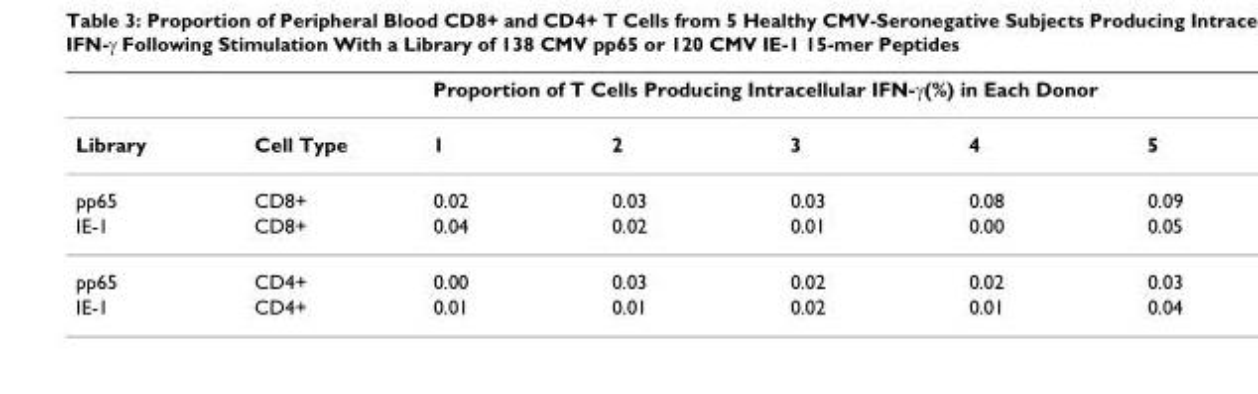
<table><thead><tr><td rowspan="2">Library</td><td rowspan="2">Cell Type</td><td colspan="5">Proportion of T Cells Producing Intracellular IFN-γ(%) in Each Donor</td></tr><tr><td>1</td><td>2</td><td>3</td><td>4</td><td>5</td></tr></thead><tbody><tr><td>pp65</td><td>CD8+</td><td>0.02</td><td>0.03</td><td>0.03</td><td>0.08</td><td>0.09</td></tr><tr><td>IE-1</td><td>CD8+</td><td>0.04</td><td>0.02</td><td>0.01</td><td>0.00</td><td>0.05</td></tr><tr><td>pp65</td><td>CD4+</td><td>0.00</td><td>0.03</td><td>0.02</td><td>0.02</td><td>0.03</td></tr><tr><td>IE-1</td><td>CD4+</td><td>0.01</td><td>0.01</td><td>0.02</td><td>0.01</td><td>0.04</td></tr></tbody></table>